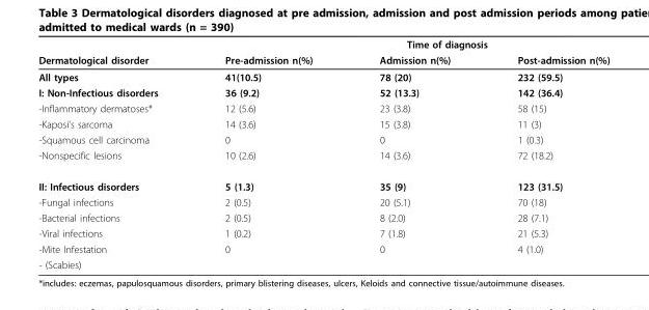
<table><thead><tr><td rowspan="2">Dermatological disorder</td><td colspan="3">Time of diagnosis</td></tr><tr><td>Pre-admission n(%)</td><td>Admission n(%)</td><td>Post-admission n(%)</td></tr></thead><tbody><tr><td>All types</td><td>41(10.5)</td><td>78 (20)</td><td>232 (59.5)</td></tr><tr><td>I: Non-Infectious disorders</td><td>36 (9.2)</td><td>52 (13.3)</td><td>142 (36.4)</td></tr><tr><td>-Inflammatory dermatoses*</td><td>12 (5.6)</td><td>23 (3.8)</td><td>58 (15)</td></tr><tr><td>-Kaposi’s sarcoma</td><td>14 (3.6)</td><td>15 (3.8)</td><td>11 (3)</td></tr><tr><td>-Squamous cell carcinoma</td><td>0</td><td>0</td><td>1 (0.3)</td></tr><tr><td>-Nonspecific lesions</td><td>10 (2.6)</td><td>14 (3.6)</td><td>72 (18.2)</td></tr><tr><td>II: Infectious disorders</td><td>5 (1.3)</td><td>35 (9)</td><td>123 (31.5)</td></tr><tr><td>-Fungal infections</td><td>2 (0.5)</td><td>20 (5.1)</td><td>70 (18)</td></tr><tr><td>-Bacterial infections</td><td>2 (0.5)</td><td>8 (2.0)</td><td>28 (7.1)</td></tr><tr><td>-Viral infections</td><td>1 (0.2)</td><td>7 (1.8)</td><td>21 (5.3)</td></tr><tr><td>-Mite Infestation</td><td>0</td><td>0</td><td>4 (1.0)</td></tr><tr><td>- (Scabies)</td><td></td><td></td><td></td></tr></tbody></table>